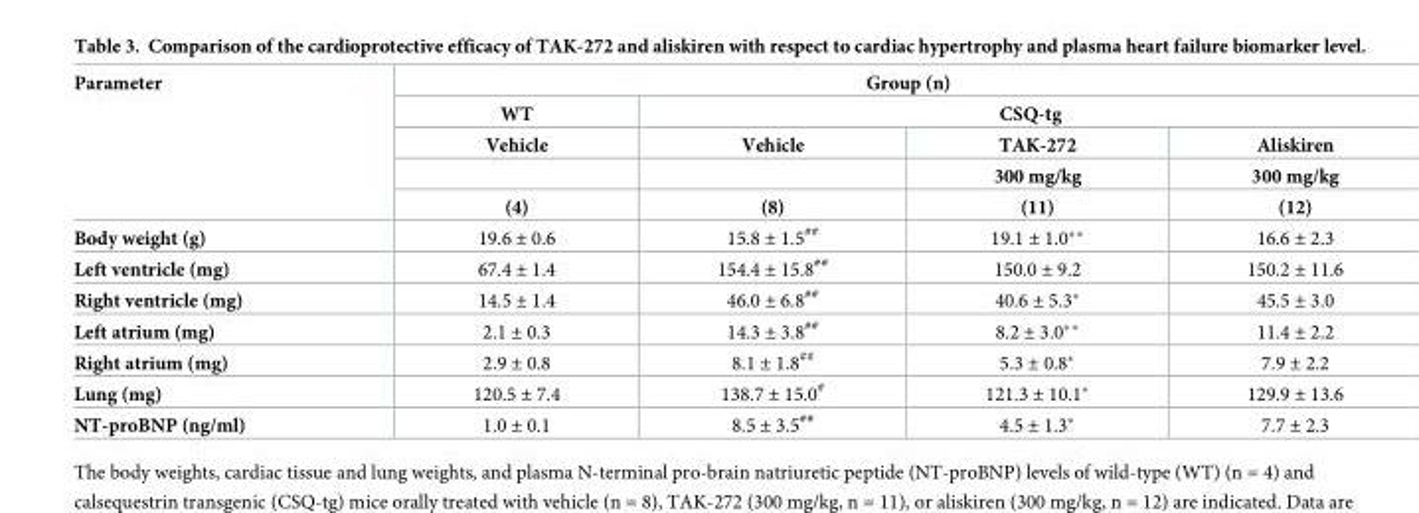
<table><thead><tr><td rowspan="5">Parameter</td><td colspan="4">Group (n)</td></tr><tr><td rowspan="4">WT Vehicle (4)</td><td colspan="3">CSQ-tg</td></tr><tr><td rowspan="3">Vehicle (8)</td><td rowspan="3">TAK-272 300 mg/kg (11)</td><td rowspan="3">Aliskiren 300 mg/kg (12)</td></tr><tr></tr><tr></tr></thead><tbody><tr><td>Body weight (g)</td><td>19.6 ± 0.6</td><td>15.8 ± 1.5<sup>##</sup></td><td>19.1 ± 1.0**</td><td>16.6 ± 2.3</td></tr><tr><td>Left ventricle (mg)</td><td>67.4 ± 1.4</td><td>154.4 ± 15.8<sup>##</sup></td><td>150.0 ± 9.2</td><td>150.2 ± 11.6</td></tr><tr><td>Right ventricle (mg)</td><td>14.5 ± 1.4</td><td>46.0 ± 6.8<sup>##</sup></td><td>40.6 ± 5.3*</td><td>45.5 ± 3.0</td></tr><tr><td>Left atrium (mg)</td><td>2.1 ± 0.3</td><td>14.3 ± 3.8<sup>##</sup></td><td>8.2 ± 3.0**</td><td>11.4 ± 2.2</td></tr><tr><td>Right atrium (mg)</td><td>2.9 ± 0.8</td><td>8.1 ± 1.8<sup>##</sup></td><td>5.3 ± 0.8*</td><td>7.9 ± 2.2</td></tr><tr><td>Lung (mg)</td><td>120.5 ± 7.4</td><td>138.7 ± 15.0<sup>#</sup></td><td>121.3 ± 10.1*</td><td>129.9 ± 13.6</td></tr><tr><td>NT-proBNP (ng/ml)</td><td>1.0 ± 0.1</td><td>8.5 ± 3.5<sup>##</sup></td><td>4.5 ± 1.3*</td><td>7.7 ± 2.3</td></tr></tbody></table>